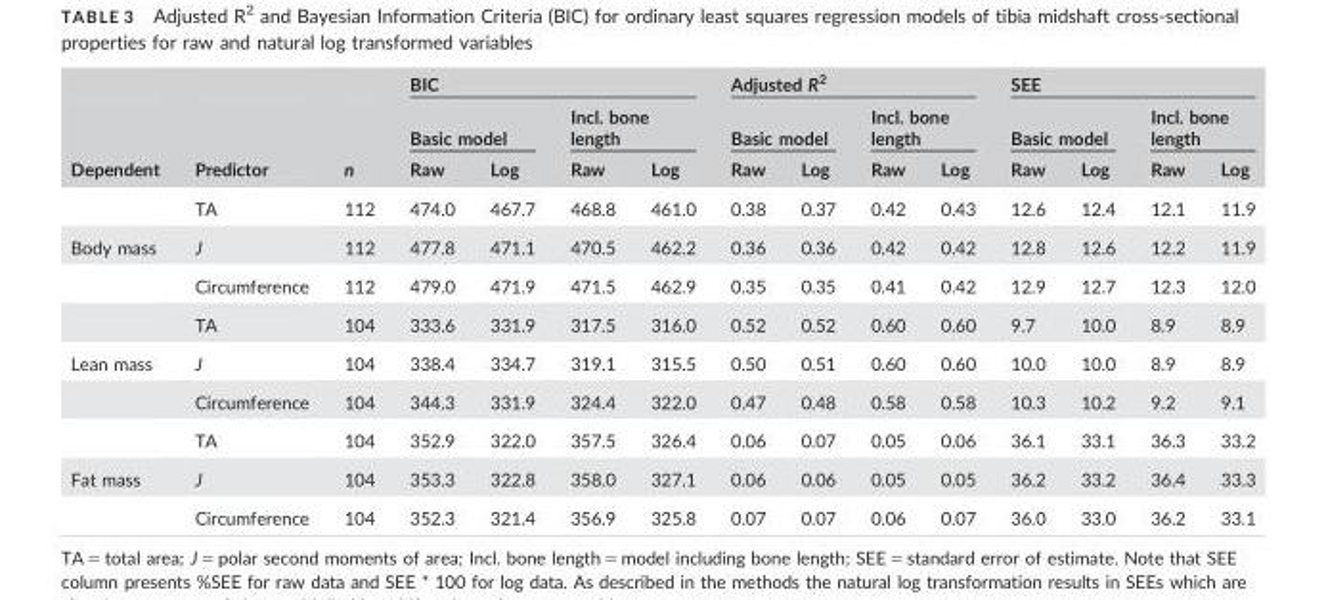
<table><thead><tr><td rowspan="3">Dependent</td><td rowspan="3">Predictor</td><td rowspan="3">n</td><td colspan="4">BIC</td><td colspan="4">Adjusted R<sup>2</sup></td><td colspan="4">SEE</td></tr><tr><td colspan="2">Basic model</td><td colspan="2">Incl. bone length</td><td colspan="2">Basic model</td><td colspan="2">Incl. bone length</td><td colspan="2">Basic model</td><td colspan="2">Incl. bone length</td></tr><tr><td>Raw</td><td>Log</td><td>Raw</td><td>Log</td><td>Raw</td><td>Log</td><td>Raw</td><td>Log</td><td>Raw</td><td>Log</td><td>Raw</td><td>Log</td></tr></thead><tbody><tr><td></td><td>TA</td><td>112</td><td>474.0</td><td>467.7</td><td>468.8</td><td>461.0</td><td>0.38</td><td>0.37</td><td>0.42</td><td>0.43</td><td>12.6</td><td>12.4</td><td>12.1</td><td>11.9</td></tr><tr><td rowspan="3">Body mass</td><td>J</td><td>112</td><td>477.8</td><td>471.1</td><td>470.5</td><td>462.2</td><td>0.36</td><td>0.36</td><td>0.42</td><td>0.42</td><td>12.8</td><td>12.6</td><td>12.2</td><td>11.9</td></tr><tr><td>Circumference</td><td>112</td><td>479.0</td><td>471.9</td><td>471.5</td><td>462.9</td><td>0.35</td><td>0.35</td><td>0.41</td><td>0.42</td><td>12.9</td><td>12.7</td><td>12.3</td><td>12.0</td></tr><tr><td>TA</td><td>104</td><td>333.6</td><td>331.9</td><td>317.5</td><td>316.0</td><td>0.52</td><td>0.52</td><td>0.60</td><td>0.60</td><td>9.7</td><td>10.0</td><td>8.9</td><td>8.9</td></tr><tr><td rowspan="3">Lean mass</td><td>J</td><td>104</td><td>338.4</td><td>334.7</td><td>319.1</td><td>315.5</td><td>0.50</td><td>0.51</td><td>0.60</td><td>0.60</td><td>10.0</td><td>10.0</td><td>8.9</td><td>8.9</td></tr><tr><td>Circumference</td><td>104</td><td>344.3</td><td>331.9</td><td>324.4</td><td>322.0</td><td>0.47</td><td>0.48</td><td>0.58</td><td>0.58</td><td>10.3</td><td>10.2</td><td>9.2</td><td>9.1</td></tr><tr><td>TA</td><td>104</td><td>352.9</td><td>322.0</td><td>357.5</td><td>326.4</td><td>0.06</td><td>0.07</td><td>0.05</td><td>0.06</td><td>36.1</td><td>33.1</td><td>36.3</td><td>33.2</td></tr><tr><td rowspan="2">Fat mass</td><td>J</td><td>104</td><td>353.3</td><td>322.8</td><td>358.0</td><td>327.1</td><td>0.06</td><td>0.06</td><td>0.05</td><td>0.05</td><td>36.2</td><td>33.2</td><td>36.4</td><td>33.3</td></tr><tr><td>Circumference</td><td>104</td><td>352.3</td><td>321.4</td><td>356.9</td><td>325.8</td><td>0.07</td><td>0.07</td><td>0.06</td><td>0.07</td><td>36.0</td><td>33.0</td><td>36.2</td><td>33.1</td></tr></tbody></table>